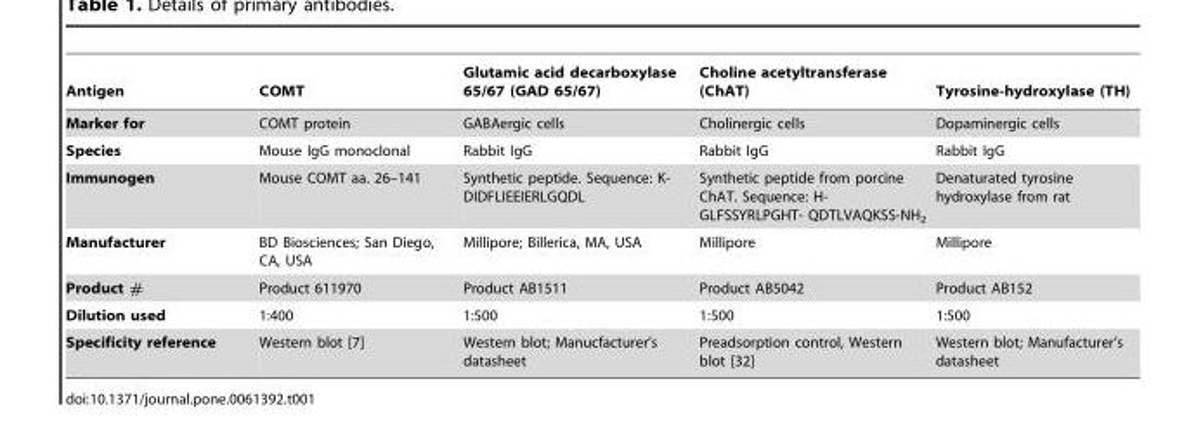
<table><thead><tr><td>Antigen</td><td>COMT</td><td>Glutamic acid decarboxylase 65/67 (GAD 65/67)</td><td>Choline acetyltransferase (ChAT)</td><td>Tyrosine-hydroxylase (TH)</td></tr></thead><tbody><tr><td>Marker for</td><td>COMT protein</td><td>GABAergic cells</td><td>Cholinergic cells</td><td>Dopaminergic cells</td></tr><tr><td>Species</td><td>Mouse IgG monoclonal</td><td>Rabbit IgG</td><td>Rabbit IgG</td><td>Rabbit IgG</td></tr><tr><td>Immunogen</td><td>Mouse COMT aa. 26–141</td><td>Synthetic peptide. Sequence: K- DIDFLIEEIERLGQDL</td><td>Synthetic peptide from porcine ChAT. Sequence: H- GLFSSYRLPGHT- QDTLVAQKSS-NH<sub>2</sub></td><td>Denaturated tyrosine hydroxylase from rat</td></tr><tr><td>Manufacturer</td><td>BD Biosciences; San Diego, CA, USA</td><td>Millipore; Billerica, MA, USA</td><td>Millipore</td><td>Millipore</td></tr><tr><td>Product #</td><td>Product 611970</td><td>Product AB1511</td><td>Product AB5042</td><td>Product AB152</td></tr><tr><td>Dilution used</td><td>1:400</td><td>1:500</td><td>1:500</td><td>1:500</td></tr><tr><td>Specificity reference</td><td>Western blot [7]</td><td>Western blot; Manucfacturer’s datasheet</td><td>Preadsorption control, Western blot [32]</td><td>Western blot; Manufacturer’s datasheet</td></tr></tbody></table>